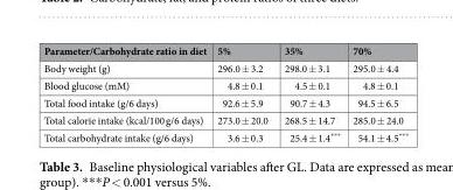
<table><thead><tr><td>Parameter/Carbohydrate ratio in diet</td><td>5%</td><td>35%</td><td>70%</td></tr></thead><tbody><tr><td>Body weight (g)</td><td>296.0 ± 3.2</td><td>298.0 ± 3.1</td><td>295.0 ± 4.4</td></tr><tr><td>Blood glucose (mM)</td><td>4.8 ± 0.1</td><td>4.5 ± 0.1</td><td>4.8 ± 0.1</td></tr><tr><td>Total food intake (g/6 days)</td><td>92.6 ± 5.9</td><td>90.7 ± 4.3</td><td>94.5 ± 6.5</td></tr><tr><td>Total calorie intake (kcal/100 g/6 days)</td><td>273.0 ± 20.0</td><td>268.5 ± 14.7</td><td>285.0 ± 24.0</td></tr><tr><td>Total carbohydrate intake (g/6 days)</td><td>3.6 ± 0.3</td><td>25.4 ± 1.4***</td><td>54.1 ± 4.5***</td></tr></tbody></table>